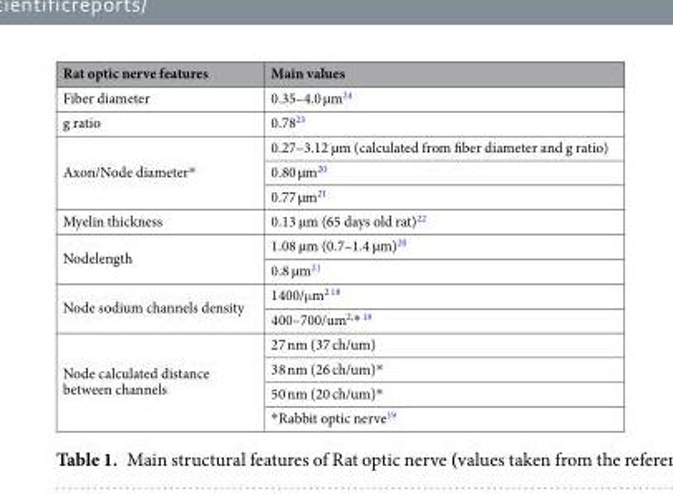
<table><thead><tr><td>Rat optic nerve features</td><td>Main values</td></tr></thead><tbody><tr><td>Fiber diameter</td><td>0.35–4.0 µm<sup>24</sup></td></tr><tr><td>g ratio</td><td>0.78<sup>23</sup></td></tr><tr><td rowspan="3">Axon/Node diameter*</td><td>0.27–3.12 µm (calculated from fiber diameter and g ratio)</td></tr><tr><td>0.80 µm<sup>20</sup></td></tr><tr><td>0.77 µm<sup>21</sup></td></tr><tr><td>Myelin thickness</td><td>0.13 µm (65 days old rat)<sup>22</sup></td></tr><tr><td rowspan="2">Nodelength</td><td>1.08 µm (0.7–1.4 µm)<sup>20</sup></td></tr><tr><td>0.8 µm<sup>21</sup></td></tr><tr><td rowspan="2">Node sodium channels density</td><td>1400/μm<sup>2 18</sup></td></tr><tr><td>400–700/um<sup>2,</sup>* <sup>19</sup></td></tr><tr><td rowspan="4">Node calculated distance between channels</td><td>27 nm (37 ch/um)</td></tr><tr><td>38 nm (26 ch/um)*</td></tr><tr><td>50 nm (20 ch/um)*</td></tr><tr><td>*Rabbit optic nerve<sup>19</sup></td></tr></tbody></table>